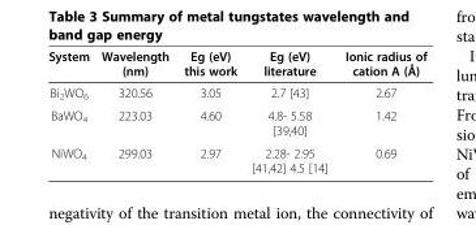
<table><thead><tr><td>System</td><td>Wavelength (nm)</td><td>Eg (eV) this work</td><td>Eg (eV) literature</td><td>Ionic radius of cation A (Å)</td></tr></thead><tbody><tr><td>Bi<sub>2</sub>WO<sub>6</sub></td><td>320.56</td><td>3.05</td><td>2.7 [43]</td><td>2.67</td></tr><tr><td>BaWO<sub>4</sub></td><td>223.03</td><td>4.60</td><td>4.8- 5.58 [39,40]</td><td>1.42</td></tr><tr><td>NiWO<sub>4</sub></td><td>299.03</td><td>2.97</td><td>2.28- 2.95 [41,42] 4.5 [14]</td><td>0.69</td></tr></tbody></table>